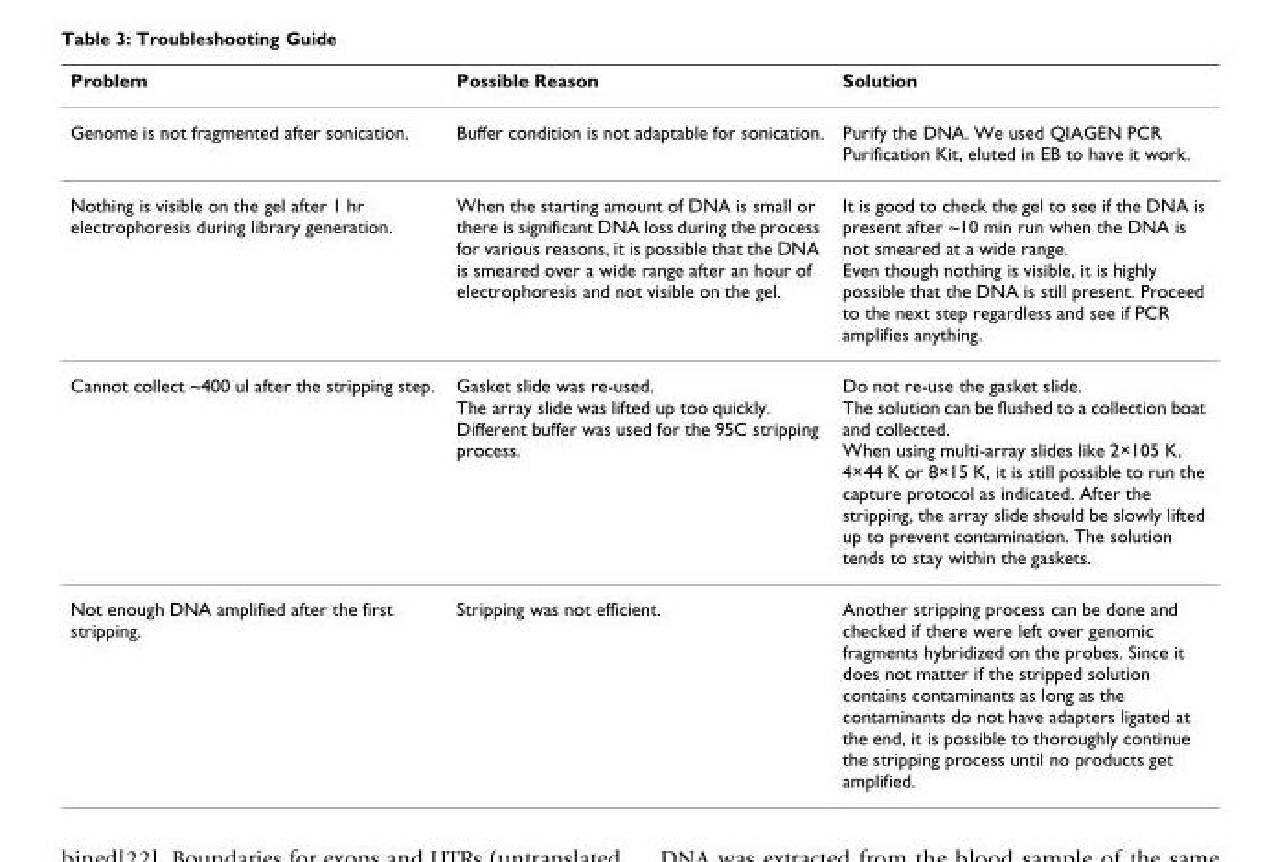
<table><thead><tr><td>Problem</td><td>Possible Reason</td><td>Solution</td></tr></thead><tbody><tr><td>Genome is not fragmented after sonication.</td><td>Buffer condition is not adaptable for sonication.</td><td>Purify the DNA. We used QIAGEN PCR Purification Kit, eluted in EB to have it work.</td></tr><tr><td>Nothing is visible on the gel after 1 hr electrophoresis during library generation.</td><td>When the starting amount of DNA is small or there is significant DNA loss during the process for various reasons, it is possible that the DNA is smeared over a wide range after an hour of electrophoresis and not visible on the gel.</td><td>It is good to check the gel to see if the DNA is present after ~10 min run when the DNA is not smeared at a wide range. Even though nothing is visible, it is highly possible that the DNA is still present. Proceed to the next step regardless and see if PCR amplifies anything.</td></tr><tr><td>Cannot collect ~400 ul after the stripping step.</td><td>Gasket slide was re-used. The array slide was lifted up too quickly. Different buffer was used for the 95C stripping process.</td><td>Do not re-use the gasket slide. The solution can be flushed to a collection boat and collected. When using multi-array slides like 2×105 K, 4×44 K or 8×15 K, it is still possible to run the capture protocol as indicated. After the stripping, the array slide should be slowly lifted up to prevent contamination. The solution tends to stay within the gaskets.</td></tr><tr><td>Not enough DNA amplified after the first stripping.</td><td>Stripping was not efficient.</td><td>Another stripping process can be done and checked if there were left over genomic fragments hybridized on the probes. Since it does not matter if the stripped solution contains contaminants as long as the contaminants do not have adapters ligated at the end, it is possible to thoroughly continue the stripping process until no products get amplified.</td></tr></tbody></table>